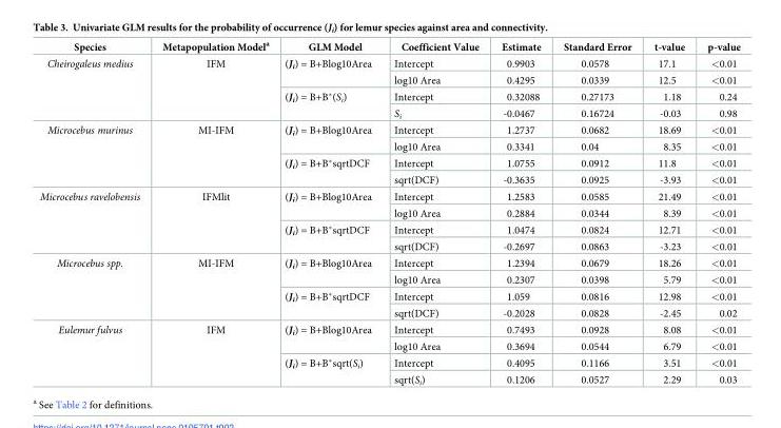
<table><thead><tr><td>Species</td><td>Metapopulation Model<sup>a</sup></td><td>GLM Model</td><td>Coefficient Value</td><td>Estimate</td><td>Standard Error</td><td>t-value</td><td>p-value</td></tr></thead><tbody><tr><td rowspan="4">Cheirogaleus medius</td><td rowspan="4">IFM</td><td rowspan="2">(J<sub>i</sub>) = B+Blog10Area</td><td>Intercept</td><td>0.9903</td><td>0.0578</td><td>17.1</td><td>&lt;0.01</td></tr><tr><td>log10 Area</td><td>0.4295</td><td>0.0339</td><td>12.5</td><td>&lt;0.01</td></tr><tr><td rowspan="2">(J<sub>i</sub>) = B+B*(S<sub>i</sub>)</td><td>Intercept</td><td>0.32088</td><td>0.27173</td><td>1.18</td><td>0.24</td></tr><tr><td>S<sub>i</sub></td><td>-0.0467</td><td>0.16724</td><td>-0.03</td><td>0.98</td></tr><tr><td rowspan="4">Microcebus murinus</td><td rowspan="4">MI-IFM</td><td rowspan="2">(J<sub>i</sub>) = B+Blog10Area</td><td>Intercept</td><td>1.2737</td><td>0.0682</td><td>18.69</td><td>&lt;0.01</td></tr><tr><td>log10 Area</td><td>0.3341</td><td>0.04</td><td>8.35</td><td>&lt;0.01</td></tr><tr><td rowspan="2">(J<sub>i</sub>) = B+B*sqrtDCF</td><td>Intercept</td><td>1.0755</td><td>0.0912</td><td>11.8</td><td>&lt;0.01</td></tr><tr><td>sqrt(DCF)</td><td>-0.3635</td><td>0.0925</td><td>-3.93</td><td>&lt;0.01</td></tr><tr><td rowspan="4">Microcebus ravelobensis</td><td rowspan="4">IFMlit</td><td rowspan="2">(J<sub>i</sub>) = B+Blog10Area</td><td>Intercept</td><td>1.2583</td><td>0.0585</td><td>21.49</td><td>&lt;0.01</td></tr><tr><td>log10 Area</td><td>0.2884</td><td>0.0344</td><td>8.39</td><td>&lt;0.01</td></tr><tr><td rowspan="2">(J<sub>i</sub>) = B+B*sqrtDCF</td><td>Intercept</td><td>1.0474</td><td>0.0824</td><td>12.71</td><td>&lt;0.01</td></tr><tr><td>sqrt(DCF)</td><td>-0.2697</td><td>0.0863</td><td>-3.23</td><td>&lt;0.01</td></tr><tr><td rowspan="4">Microcebus spp.</td><td rowspan="4">MI-IFM</td><td rowspan="2">(J<sub>i</sub>) = B+Blog10Area</td><td>Intercept</td><td>1.2394</td><td>0.0679</td><td>18.26</td><td>&lt;0.01</td></tr><tr><td>log10 Area</td><td>0.2307</td><td>0.0398</td><td>5.79</td><td>&lt;0.01</td></tr><tr><td rowspan="2">(J<sub>i</sub>) = B+B*sqrtDCF</td><td>Intercept</td><td>1.059</td><td>0.0816</td><td>12.98</td><td>&lt;0.01</td></tr><tr><td>sqrt(DCF)</td><td>-0.2028</td><td>0.0828</td><td>-2.45</td><td>0.02</td></tr><tr><td rowspan="4">Eulemur fulvus</td><td rowspan="4">IFM</td><td rowspan="2">(J<sub>i</sub>) = B+Blog10Area</td><td>Intercept</td><td>0.7493</td><td>0.0928</td><td>8.08</td><td>&lt;0.01</td></tr><tr><td>log10 Area</td><td>0.3694</td><td>0.0544</td><td>6.79</td><td>&lt;0.01</td></tr><tr><td rowspan="2">(J<sub>i</sub>) = B+B*sqrt(S<sub>i</sub>)</td><td>Intercept</td><td>0.4095</td><td>0.1166</td><td>3.51</td><td>&lt;0.01</td></tr><tr><td>sqrt(S<sub>i</sub>)</td><td>0.1206</td><td>0.0527</td><td>2.29</td><td>0.03</td></tr></tbody></table>